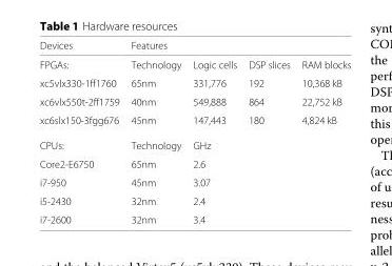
<table><thead><tr><td>Devices</td><td>Features</td><td></td><td></td><td></td></tr></thead><tbody><tr><td>FPGAs:</td><td>Technology</td><td>Logic cells</td><td>DSP slices</td><td>RAM blocks</td></tr><tr><td>xc5vlx330-1ff1760</td><td>65nm</td><td>331,776</td><td>192</td><td>10,368 kB</td></tr><tr><td>xc6vlx550t-2ff1759</td><td>40nm</td><td>549,888</td><td>864</td><td>22,752 kB</td></tr><tr><td>xc6slx150-3fgg676</td><td>45nm</td><td>147,443</td><td>180</td><td>4,824 kB</td></tr><tr><td>CPUs:</td><td>Technology</td><td>GHz</td><td></td><td></td></tr><tr><td>Core2-E6750</td><td>65nm</td><td>2.6</td><td></td><td></td></tr><tr><td>i7-950</td><td>45nm</td><td>3.07</td><td></td><td></td></tr><tr><td>i5-2430</td><td>32nm</td><td>2.4</td><td></td><td></td></tr><tr><td>i7-2600</td><td>32nm</td><td>3.4</td><td></td><td></td></tr></tbody></table>